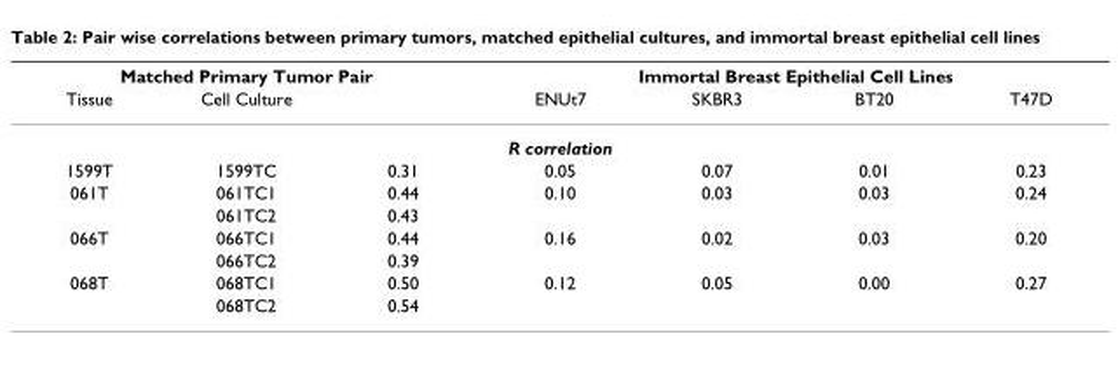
<table><thead><tr><td colspan="3">Matched Primary Tumor Pair</td><td colspan="4">Immortal Breast Epithelial Cell Lines</td></tr><tr><td>Tissue</td><td>Cell Culture</td><td></td><td>ENUt7</td><td>SKBR3</td><td>BT20</td><td>T47D</td></tr></thead><tbody><tr><td colspan="7">R correlation</td></tr><tr><td>1599T</td><td>1599TC</td><td>0.31</td><td>0.05</td><td>0.07</td><td>0.01</td><td>0.23</td></tr><tr><td rowspan="2">061T</td><td>061TC1</td><td>0.44</td><td>0.10</td><td>0.03</td><td>0.03</td><td>0.24</td></tr><tr><td>061TC2</td><td>0.43</td><td></td><td></td><td></td><td></td></tr><tr><td rowspan="2">066T</td><td>066TC1</td><td>0.44</td><td>0.16</td><td>0.02</td><td>0.03</td><td>0.20</td></tr><tr><td>066TC2</td><td>0.39</td><td></td><td></td><td></td><td></td></tr><tr><td rowspan="2">068T</td><td>068TC1</td><td>0.50</td><td>0.12</td><td>0.05</td><td>0.00</td><td>0.27</td></tr><tr><td>068TC2</td><td>0.54</td><td></td><td></td><td></td><td></td></tr></tbody></table>